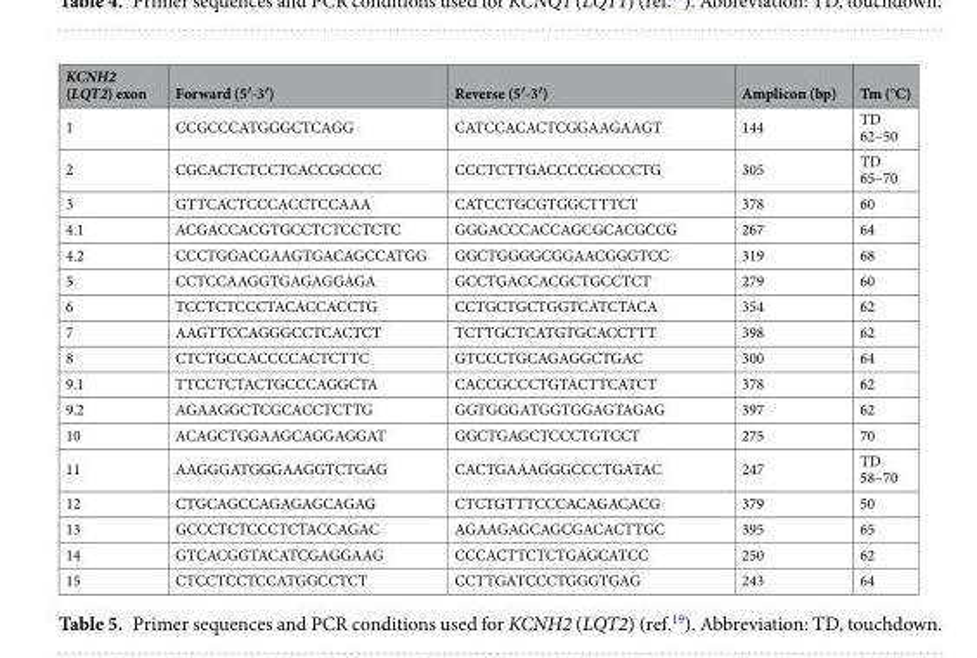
<table><thead><tr><td>KCNH2 (LQT2) exon</td><td>Forward (5′-3′)</td><td>Reverse (5′-3′)</td><td>Amplicon (bp)</td><td>Tm (°C)</td></tr></thead><tbody><tr><td>1</td><td>CCGCCCATGGGCTCAGG</td><td>CATCCACACTCGGAAGAAGT</td><td>144</td><td>TD 62–50</td></tr><tr><td>2</td><td>CGCACTCTCCTCACCGCCCC</td><td>CCCTCTTGACCCCGCCCCTG</td><td>305</td><td>TD 65–70</td></tr><tr><td>3</td><td>GTTCACTCCCACCTCCAAA</td><td>CATCCTGCGTGGCTTTCT</td><td>378</td><td>60</td></tr><tr><td>4.1</td><td>ACGACCACGTGCCTCTCCTCTC</td><td>GGGACCCACCAGCGCACGCCG</td><td>267</td><td>64</td></tr><tr><td>4.2</td><td>CCCTGGACGAAGTGACAGCCATGG</td><td>GGCTGGGGCGGAACGGGTCC</td><td>319</td><td>68</td></tr><tr><td>5</td><td>CCTCCAAGGTGAGAGGAGA</td><td>GCCTGACCACGCTGCCTCT</td><td>279</td><td>60</td></tr><tr><td>6</td><td>TCCTCTCCCTACACCACCTG</td><td>CCTGCTGCTGGTCATCTACA</td><td>354</td><td>62</td></tr><tr><td>7</td><td>AAGTTCCAGGGCCTCACTCT</td><td>TCTTGCTCATGTGCACCTTT</td><td>398</td><td>62</td></tr><tr><td>8</td><td>CTCTGCCACCCCACTCTTC</td><td>GTCCCTGCAGAGGCTGAC</td><td>300</td><td>64</td></tr><tr><td>9.1</td><td>TTCCTCTACTGCCCAGGCTA</td><td>CACCGCCCTGTACTTCATCT</td><td>378</td><td>62</td></tr><tr><td>9.2</td><td>AGAAGGCTCGCACCTCTTG</td><td>GGTGGGATGGTGGAGTAGAG</td><td>397</td><td>62</td></tr><tr><td>10</td><td>ACAGCTGGAAGCAGGAGGAT</td><td>GGCTGAGCTCCCTGTCCT</td><td>275</td><td>70</td></tr><tr><td>11</td><td>AAGGGATGGGAAGGTCTGAG</td><td>CACTGAAAGGGCCCTGATAC</td><td>247</td><td>TD 58–70</td></tr><tr><td>12</td><td>CTGCAGCCAGAGAGCAGAG</td><td>CTCTGTTTCCCACAGACACG</td><td>379</td><td>50</td></tr><tr><td>13</td><td>GCCCTCTCCCTCTACCAGAC</td><td>AGAAGAGCAGCGACACTTGC</td><td>395</td><td>65</td></tr><tr><td>14</td><td>GTCACGGTACATCGAGGAAG</td><td>CCCACTTCTCTGAGCATCC</td><td>250</td><td>62</td></tr><tr><td>15</td><td>CTCCTCCTCCATGGCCTCT</td><td>CCTTGATCCCTGGGTGAG</td><td>243</td><td>64</td></tr></tbody></table>